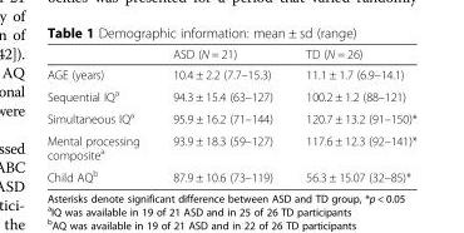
<table><thead><tr><td></td><td>ASD (N = 21)</td><td>TD (N = 26)</td></tr></thead><tbody><tr><td>AGE (years)</td><td>10.4 ± 2.2 (7.7–15.3)</td><td>11.1 ± 1.7 (6.9–14.1)</td></tr><tr><td>Sequential IQ<sup>a</sup></td><td>94.3 ± 15.4 (63–127)</td><td>100.2 ± 1.2 (88–121)</td></tr><tr><td>Simultaneous IQ<sup>a</sup></td><td>95.9 ± 16.2 (71–144)</td><td>120.7 ± 13.2 (91–150)*</td></tr><tr><td>Mental processing composite<sup>a</sup></td><td>93.9 ± 18.3 (59–127)</td><td>117.6 ± 12.3 (92–141)*</td></tr><tr><td>Child AQ<sup>b</sup></td><td>87.9 ± 10.6 (73–119)</td><td>56.3 ± 15.07 (32–85)*</td></tr></tbody></table>